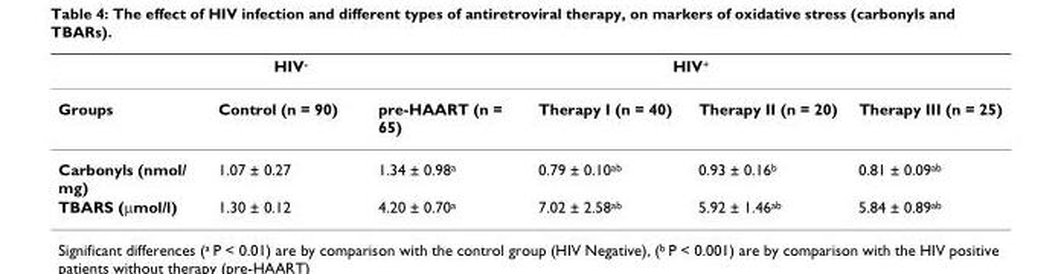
<table><thead><tr><td rowspan="2">Groups</td><td rowspan="2">HIV- Control (n = 90)</td><td colspan="4">HIV+</td></tr><tr><td>pre-HAART (n = 65)</td><td>Therapy I (n = 40)</td><td>Therapy II (n = 20)</td><td>Therapy III (n = 25)</td></tr></thead><tbody><tr><td>Carbonyls (nmol/ mg)</td><td>1.07 ± 0.27</td><td>1.34 ± 0.98<sup>a</sup></td><td>0.79 ± 0.10<sup>ab</sup></td><td>0.93 ± 0.16<sup>b</sup></td><td>0.81 ± 0.09<sup>ab</sup></td></tr><tr><td>TBARS (μmol/l)</td><td>1.30 ± 0.12</td><td>4.20 ± 0.70<sup>a</sup></td><td>7.02 ± 2.58<sup>ab</sup></td><td>5.92 ± 1.46<sup>ab</sup></td><td>5.84 ± 0.89<sup>ab</sup></td></tr></tbody></table>